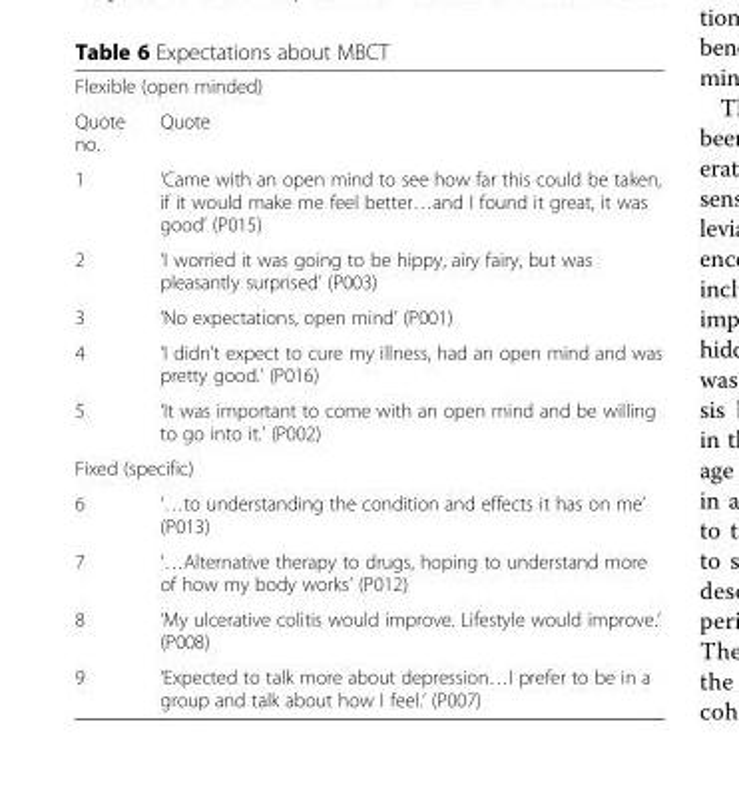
<table><tbody><tr><td colspan="2">Flexible (open minded)</td></tr><tr><td>Quote no.</td><td>Quote</td></tr><tr><td>1</td><td>‘Came with an open mind to see how far this could be taken, if it would make me feel better…and I found it great, it was good’ (P015)</td></tr><tr><td>2</td><td>‘I worried it was going to be hippy, airy fairy, but was pleasantly surprised’ (P003)</td></tr><tr><td>3</td><td>‘No expectations, open mind’ (P001)</td></tr><tr><td>4</td><td>‘I didn’t expect to cure my illness, had an open mind and was pretty good.’ (P016)</td></tr><tr><td>5</td><td>‘It was important to come with an open mind and be willing to go into it.’ (P002)</td></tr><tr><td colspan="2">Fixed (specific)</td></tr><tr><td>6</td><td>‘…to understanding the condition and effects it has on me’ (P013)</td></tr><tr><td>7</td><td>‘…Alternative therapy to drugs, hoping to understand more of how my body works’ (P012)</td></tr><tr><td>8</td><td>‘My ulcerative colitis would improve. Lifestyle would improve.’ (P008)</td></tr><tr><td>9</td><td>‘Expected to talk more about depression…I prefer to be in a group and talk about how I feel.’ (P007)</td></tr></tbody></table>